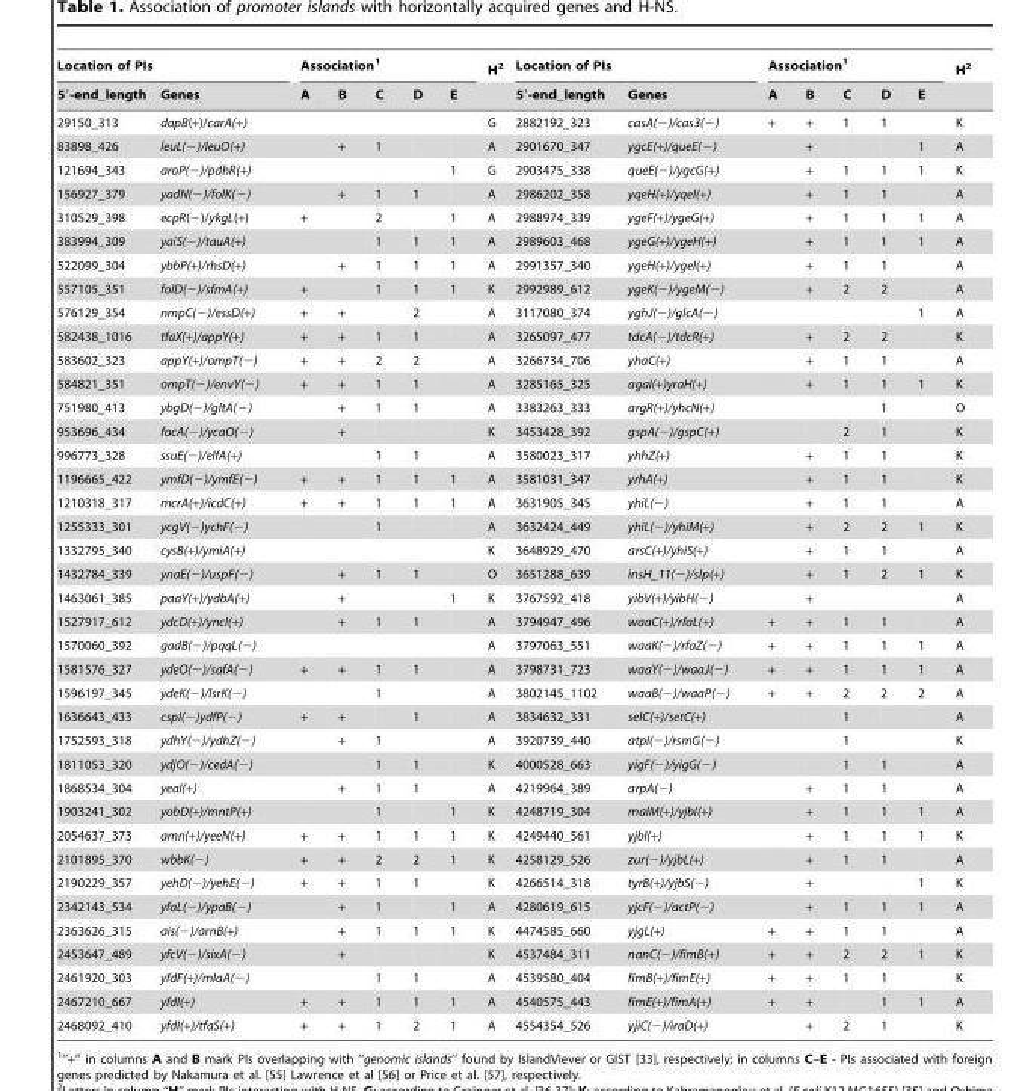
<table><thead><tr><td colspan="2">Location of PIs</td><td colspan="5">Association<sup>1</sup></td><td rowspan="2">H<sup>2</sup></td><td colspan="2">Location of PIs</td><td colspan="5">Association<sup>1</sup></td><td rowspan="2">H<sup>2</sup></td></tr><tr><td>5′-end_length</td><td>Genes</td><td>A</td><td>B</td><td>C</td><td>D</td><td>E</td><td>5′-end_length</td><td>Genes</td><td>A</td><td>B</td><td>C</td><td>D</td><td>E</td></tr></thead><tbody><tr><td>29150_313</td><td>dapB(+)/carA(+)</td><td></td><td></td><td></td><td></td><td></td><td>G</td><td>2882192_323</td><td>casA(−)/cas3(−)</td><td>+</td><td>+</td><td>1</td><td>1</td><td></td><td>K</td></tr><tr><td>83898_426</td><td>leuL(−)/leuO(+)</td><td></td><td>+</td><td>1</td><td></td><td></td><td>A</td><td>2901670_347</td><td>ygcE(+)/queE(−)</td><td></td><td>+</td><td></td><td></td><td>1</td><td>A</td></tr><tr><td>121694_343</td><td>aroP(−)/pdhR(+)</td><td></td><td></td><td></td><td></td><td>1</td><td>G</td><td>2903475_338</td><td>queE(−)/ygcG(+)</td><td></td><td>+</td><td>1</td><td>1</td><td>1</td><td>K</td></tr><tr><td>156927_379</td><td>yadN(−)/folK(−)</td><td></td><td>+</td><td>1</td><td>1</td><td></td><td>A</td><td>2986202_358</td><td>yqeH(+)/yqeI(+)</td><td></td><td>+</td><td>1</td><td>1</td><td></td><td>A</td></tr><tr><td>310529_398</td><td>ecpR(−)/ykgL(+)</td><td>+</td><td></td><td>2</td><td></td><td>1</td><td>A</td><td>2988974_339</td><td>ygeF(+)/ygeG(+)</td><td></td><td>+</td><td>1</td><td>1</td><td>1</td><td>A</td></tr><tr><td>383994_309</td><td>yaiS(−)/tauA(+)</td><td></td><td></td><td>1</td><td>1</td><td>1</td><td>A</td><td>2989603_468</td><td>ygeG(+)/ygeH(+)</td><td></td><td>+</td><td>1</td><td>1</td><td>1</td><td>A</td></tr><tr><td>522099_304</td><td>ybbP(+)/rhsD(+)</td><td></td><td>+</td><td>1</td><td>1</td><td>1</td><td>A</td><td>2991357_340</td><td>ygeH(+)/ygeI(+)</td><td></td><td>+</td><td>1</td><td>1</td><td></td><td>A</td></tr><tr><td>557105_351</td><td>folD(−)/sfmA(+)</td><td>+</td><td></td><td>1</td><td>1</td><td>1</td><td>K</td><td>2992989_612</td><td>ygeK(−)/ygeM(−)</td><td></td><td>+</td><td>2</td><td>2</td><td></td><td>A</td></tr><tr><td>576129_354</td><td>nmpC(−)/essD(+)</td><td>+</td><td>+</td><td></td><td>2</td><td></td><td>A</td><td>3117080_374</td><td>yghJ(−)/glcA(−)</td><td></td><td></td><td></td><td></td><td>1</td><td>A</td></tr><tr><td>582438_1016</td><td>tfaX(+)/appY(+)</td><td>+</td><td>+</td><td>1</td><td>1</td><td></td><td>A</td><td>3265097_477</td><td>tdcA(−)/tdcR(+)</td><td></td><td>+</td><td>2</td><td>2</td><td></td><td>K</td></tr><tr><td>583602_323</td><td>appY(+)/ompT(−)</td><td>+</td><td>+</td><td>2</td><td>2</td><td></td><td>A</td><td>3266734_706</td><td>yhaC(+)</td><td></td><td>+</td><td>1</td><td>1</td><td></td><td>A</td></tr><tr><td>584821_351</td><td>ompT(−)/envY(−)</td><td>+</td><td>+</td><td>1</td><td>1</td><td></td><td>A</td><td>3285165_325</td><td>agaI(+)yraH(+)</td><td></td><td>+</td><td>1</td><td>1</td><td>1</td><td>K</td></tr><tr><td>751980_413</td><td>ybgD(−)/gltA(−)</td><td></td><td>+</td><td>1</td><td>1</td><td></td><td>A</td><td>3383263_333</td><td>argR(+)/yhcN(+)</td><td></td><td></td><td></td><td>1</td><td></td><td>O</td></tr><tr><td>953696_434</td><td>focA(−)/ycaO(−)</td><td></td><td>+</td><td></td><td></td><td></td><td>K</td><td>3453428_392</td><td>gspA(−)/gspC(+)</td><td></td><td></td><td>2</td><td>1</td><td></td><td>K</td></tr><tr><td>996773_328</td><td>ssuE(−)/elfA(+)</td><td></td><td></td><td>1</td><td>1</td><td></td><td>A</td><td>3580023_317</td><td>yhhZ(+)</td><td></td><td>+</td><td>1</td><td>1</td><td></td><td>K</td></tr><tr><td>1196665_422</td><td>ymfD(−)/ymfE(−)</td><td>+</td><td>+</td><td>1</td><td>1</td><td>1</td><td>A</td><td>3581031_347</td><td>yrhA(+)</td><td></td><td>+</td><td>1</td><td>1</td><td></td><td>K</td></tr><tr><td>1210318_317</td><td>mcrA(+)/icdC(+)</td><td>+</td><td>+</td><td>1</td><td>1</td><td>1</td><td>A</td><td>3631905_345</td><td>yhiL(−)</td><td></td><td>+</td><td>1</td><td>1</td><td></td><td>A</td></tr><tr><td>1255333_301</td><td>ycgV(−)ychF(−)</td><td></td><td></td><td>1</td><td></td><td></td><td>A</td><td>3632424_449</td><td>yhiL(−)/yhiM(+)</td><td></td><td>+</td><td>2</td><td>2</td><td>1</td><td>K</td></tr><tr><td>1332795_340</td><td>cysB(+)/ymiA(+)</td><td></td><td></td><td></td><td></td><td></td><td>K</td><td>3648929_470</td><td>arsC(+)/yhiS(+)</td><td></td><td>+</td><td>1</td><td>1</td><td></td><td>A</td></tr><tr><td>1432784_339</td><td>ynaE(−)/uspF(−)</td><td></td><td>+</td><td>1</td><td>1</td><td></td><td>O</td><td>3651288_639</td><td>insH_11(−)/slp(+)</td><td></td><td>+</td><td>1</td><td>2</td><td>1</td><td>K</td></tr><tr><td>1463061_385</td><td>paaY(+)/ydbA(+)</td><td></td><td>+</td><td></td><td></td><td>1</td><td>K</td><td>3767592_418</td><td>yibV(+)/yibH(−)</td><td></td><td>+</td><td></td><td></td><td></td><td>A</td></tr><tr><td>1527917_612</td><td>ydcD(+)/yncI(+)</td><td></td><td>+</td><td>1</td><td>1</td><td></td><td>A</td><td>3794947_496</td><td>waaC(+)/rfaL(+)</td><td>+</td><td>+</td><td>1</td><td>1</td><td></td><td>A</td></tr><tr><td>1570060_392</td><td>gadB(−)/pqqL(−)</td><td></td><td></td><td></td><td></td><td></td><td>A</td><td>3797063_551</td><td>waaK(−)/rfaZ(−)</td><td>+</td><td>+</td><td>1</td><td>1</td><td>1</td><td>A</td></tr><tr><td>1581576_327</td><td>ydeO(−)/safA(−)</td><td>+</td><td>+</td><td>1</td><td>1</td><td></td><td>A</td><td>3798731_723</td><td>waaY(−)/waaJ(−)</td><td>+</td><td>+</td><td>1</td><td>1</td><td>1</td><td>A</td></tr><tr><td>1596197_345</td><td>ydeK(−)/lsrK(−)</td><td></td><td></td><td>1</td><td></td><td></td><td>A</td><td>3802145_1102</td><td>waaB(−)/waaP(−)</td><td>+</td><td>+</td><td>2</td><td>2</td><td>2</td><td>A</td></tr><tr><td>1636643_433</td><td>cspI(−)ydfP(−)</td><td>+</td><td>+</td><td></td><td>1</td><td></td><td>A</td><td>3834632_331</td><td>selC(+)/setC(+)</td><td></td><td></td><td>1</td><td></td><td></td><td>A</td></tr><tr><td>1752593_318</td><td>ydhY(−)/ydhZ(−)</td><td></td><td>+</td><td>1</td><td></td><td></td><td>A</td><td>3920739_440</td><td>atpI(−)/rsmG(−)</td><td></td><td></td><td>1</td><td></td><td></td><td>K</td></tr><tr><td>1811053_320</td><td>ydjO(−)/cedA(−)</td><td></td><td></td><td>1</td><td>1</td><td></td><td>K</td><td>4000528_663</td><td>yigF(−)/yigG(−)</td><td></td><td></td><td>1</td><td>1</td><td></td><td>A</td></tr><tr><td>1868534_304</td><td>yeaI(+)</td><td></td><td>+</td><td>1</td><td>1</td><td></td><td>A</td><td>4219964_389</td><td>arpA(−)</td><td></td><td>+</td><td>1</td><td>1</td><td></td><td>A</td></tr><tr><td>1903241_302</td><td>yobD(+)/mntP(+)</td><td></td><td></td><td>1</td><td></td><td>1</td><td>K</td><td>4248719_304</td><td>malM(+)/yjbI(+)</td><td></td><td>+</td><td>1</td><td>1</td><td>1</td><td>A</td></tr><tr><td>2054637_373</td><td>amn(+)/yeeN(+)</td><td>+</td><td>+</td><td>1</td><td>1</td><td>1</td><td>K</td><td>4249440_561</td><td>yjbI(+)</td><td></td><td>+</td><td>1</td><td>1</td><td>1</td><td>K</td></tr><tr><td>2101895_370</td><td>wbbK(−)</td><td>+</td><td>+</td><td>2</td><td>2</td><td>1</td><td>K</td><td>4258129_526</td><td>zur(−)/yjbL(+)</td><td></td><td>+</td><td>1</td><td>1</td><td></td><td>A</td></tr><tr><td>2190229_357</td><td>yehD(−)/yehE(−)</td><td>+</td><td>+</td><td>1</td><td>1</td><td></td><td>K</td><td>4266514_318</td><td>tyrB(+)/yjbS(−)</td><td></td><td>+</td><td></td><td></td><td>1</td><td>K</td></tr><tr><td>2342143_534</td><td>yfaL(−)/ypaB(−)</td><td></td><td>+</td><td>1</td><td></td><td>1</td><td>A</td><td>4280619_615</td><td>yjcF(−)/actP(−)</td><td></td><td>+</td><td>1</td><td>1</td><td>1</td><td>A</td></tr><tr><td>2363626_315</td><td>ais(−)/arnB(+)</td><td></td><td>+</td><td>1</td><td>1</td><td>1</td><td>K</td><td>4474585_660</td><td>yjgL(+)</td><td>+</td><td>+</td><td>1</td><td>1</td><td></td><td>A</td></tr><tr><td>2453647_489</td><td>yfcV(−)/sixA(−)</td><td></td><td>+</td><td></td><td></td><td></td><td>K</td><td>4537484_311</td><td>nanC(−)/fimB(+)</td><td>+</td><td>+</td><td>2</td><td>2</td><td>1</td><td>K</td></tr><tr><td>2461920_303</td><td>yfdF(+)/mlaA(−)</td><td></td><td></td><td>1</td><td>1</td><td></td><td>A</td><td>4539580_404</td><td>fimB(+)/fimE(+)</td><td>+</td><td>+</td><td>1</td><td>1</td><td></td><td>K</td></tr><tr><td>2467210_667</td><td>yfdI(+)</td><td>+</td><td>+</td><td>1</td><td>1</td><td>1</td><td>A</td><td>4540575_443</td><td>fimE(+)/fimA(+)</td><td>+</td><td>+</td><td></td><td>1</td><td>1</td><td>A</td></tr><tr><td>2468092_410</td><td>yfdI(+)/tfaS(+)</td><td>+</td><td>+</td><td>1</td><td>2</td><td>1</td><td>A</td><td>4554354_526</td><td>yjiC(−)/iraD(+)</td><td></td><td>+</td><td>2</td><td>1</td><td></td><td>K</td></tr></tbody></table>